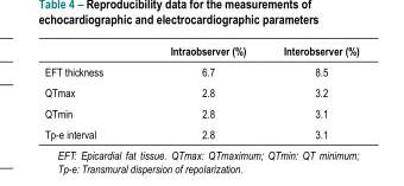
<table><thead><tr><td></td><td>Intraobserver (%)</td><td>Interobserver (%)</td></tr></thead><tbody><tr><td>EFT thickness</td><td>6.7</td><td>8.5</td></tr><tr><td>QTmax</td><td>2.8</td><td>3.2</td></tr><tr><td>QTmin</td><td>2.8</td><td>3.1</td></tr><tr><td>Tp-e interval</td><td>2.8</td><td>3.1</td></tr></tbody></table>